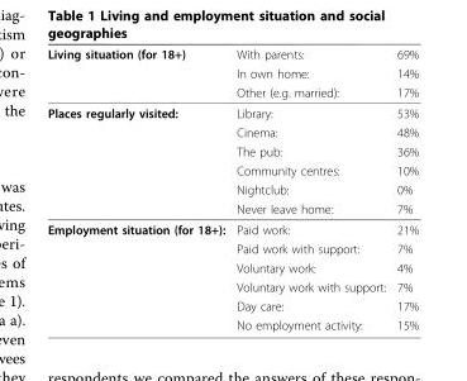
<table><thead><tr><td rowspan="3">Living situation (for 18+)</td><td rowspan="3">With parents: In own home: Other (e.g. married):</td><td rowspan="3">69% 14% 17%</td></tr><tr></tr><tr></tr></thead><tbody><tr><td rowspan="6">Places regularly visited:</td><td>Library:</td><td>53%</td></tr><tr><td>Cinema:</td><td>48%</td></tr><tr><td>The pub:</td><td>36%</td></tr><tr><td>Community centres:</td><td>10%</td></tr><tr><td>Nightclub:</td><td>0%</td></tr><tr><td>Never leave home:</td><td>7%</td></tr><tr><td rowspan="6">Employment situation (for 18+):</td><td>Paid work:</td><td>21%</td></tr><tr><td>Paid work with support:</td><td>7%</td></tr><tr><td>Voluntary work:</td><td>4%</td></tr><tr><td>Voluntary work with support:</td><td>7%</td></tr><tr><td>Day care:</td><td>17%</td></tr><tr><td>No employment activity:</td><td>15%</td></tr></tbody></table>